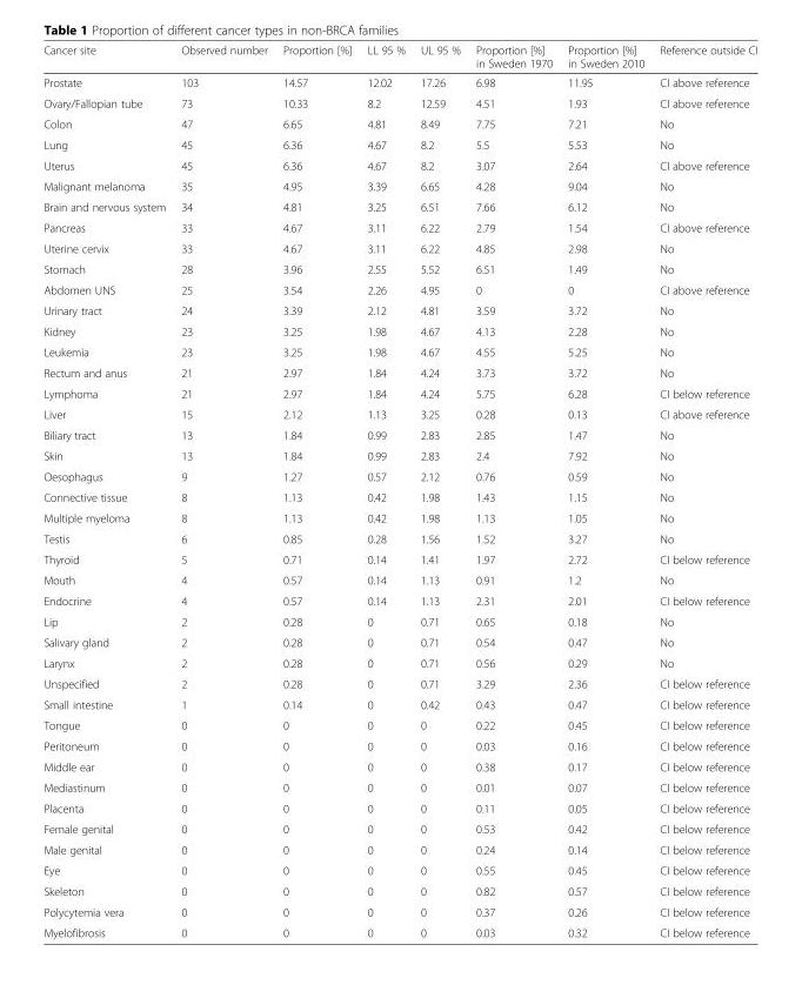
<table><thead><tr><td>Cancer site</td><td>Observed number</td><td>Proportion [%]</td><td>LL 95 %</td><td>UL 95 %</td><td>Proportion [%] in Sweden 1970</td><td>Proportion [%] in Sweden 2010</td><td>Reference outside CI</td></tr></thead><tbody><tr><td>Prostate</td><td>103</td><td>14.57</td><td>12.02</td><td>17.26</td><td>6.98</td><td>11.95</td><td>CI above reference</td></tr><tr><td>Ovary/Fallopian tube</td><td>73</td><td>10.33</td><td>8.2</td><td>12.59</td><td>4.51</td><td>1.93</td><td>CI above reference</td></tr><tr><td>Colon</td><td>47</td><td>6.65</td><td>4.81</td><td>8.49</td><td>7.75</td><td>7.21</td><td>No</td></tr><tr><td>Lung</td><td>45</td><td>6.36</td><td>4.67</td><td>8.2</td><td>5.5</td><td>5.53</td><td>No</td></tr><tr><td>Uterus</td><td>45</td><td>6.36</td><td>4.67</td><td>8.2</td><td>3.07</td><td>2.64</td><td>CI above reference</td></tr><tr><td>Malignant melanoma</td><td>35</td><td>4.95</td><td>3.39</td><td>6.65</td><td>4.28</td><td>9.04</td><td>No</td></tr><tr><td>Brain and nervous system</td><td>34</td><td>4.81</td><td>3.25</td><td>6.51</td><td>7.66</td><td>6.12</td><td>No</td></tr><tr><td>Pancreas</td><td>33</td><td>4.67</td><td>3.11</td><td>6.22</td><td>2.79</td><td>1.54</td><td>CI above reference</td></tr><tr><td>Uterine cervix</td><td>33</td><td>4.67</td><td>3.11</td><td>6.22</td><td>4.85</td><td>2.98</td><td>No</td></tr><tr><td>Stomach</td><td>28</td><td>3.96</td><td>2.55</td><td>5.52</td><td>6.51</td><td>1.49</td><td>No</td></tr><tr><td>Abdomen UNS</td><td>25</td><td>3.54</td><td>2.26</td><td>4.95</td><td>0</td><td>0</td><td>CI above reference</td></tr><tr><td>Urinary tract</td><td>24</td><td>3.39</td><td>2.12</td><td>4.81</td><td>3.59</td><td>3.72</td><td>No</td></tr><tr><td>Kidney</td><td>23</td><td>3.25</td><td>1.98</td><td>4.67</td><td>4.13</td><td>2.28</td><td>No</td></tr><tr><td>Leukemia</td><td>23</td><td>3.25</td><td>1.98</td><td>4.67</td><td>4.55</td><td>5.25</td><td>No</td></tr><tr><td>Rectum and anus</td><td>21</td><td>2.97</td><td>1.84</td><td>4.24</td><td>3.73</td><td>3.72</td><td>No</td></tr><tr><td>Lymphoma</td><td>21</td><td>2.97</td><td>1.84</td><td>4.24</td><td>5.75</td><td>6.28</td><td>CI below reference</td></tr><tr><td>Liver</td><td>15</td><td>2.12</td><td>1.13</td><td>3.25</td><td>0.28</td><td>0.13</td><td>CI above reference</td></tr><tr><td>Biliary tract</td><td>13</td><td>1.84</td><td>0.99</td><td>2.83</td><td>2.85</td><td>1.47</td><td>No</td></tr><tr><td>Skin</td><td>13</td><td>1.84</td><td>0.99</td><td>2.83</td><td>2.4</td><td>7.92</td><td>No</td></tr><tr><td>Oesophagus</td><td>9</td><td>1.27</td><td>0.57</td><td>2.12</td><td>0.76</td><td>0.59</td><td>No</td></tr><tr><td>Connective tissue</td><td>8</td><td>1.13</td><td>0.42</td><td>1.98</td><td>1.43</td><td>1.15</td><td>No</td></tr><tr><td>Multiple myeloma</td><td>8</td><td>1.13</td><td>0.42</td><td>1.98</td><td>1.13</td><td>1.05</td><td>No</td></tr><tr><td>Testis</td><td>6</td><td>0.85</td><td>0.28</td><td>1.56</td><td>1.52</td><td>3.27</td><td>No</td></tr><tr><td>Thyroid</td><td>5</td><td>0.71</td><td>0.14</td><td>1.41</td><td>1.97</td><td>2.72</td><td>CI below reference</td></tr><tr><td>Mouth</td><td>4</td><td>0.57</td><td>0.14</td><td>1.13</td><td>0.91</td><td>1.2</td><td>No</td></tr><tr><td>Endocrine</td><td>4</td><td>0.57</td><td>0.14</td><td>1.13</td><td>2.31</td><td>2.01</td><td>CI below reference</td></tr><tr><td>Lip</td><td>2</td><td>0.28</td><td>0</td><td>0.71</td><td>0.65</td><td>0.18</td><td>No</td></tr><tr><td>Salivary gland</td><td>2</td><td>0.28</td><td>0</td><td>0.71</td><td>0.54</td><td>0.47</td><td>No</td></tr><tr><td>Larynx</td><td>2</td><td>0.28</td><td>0</td><td>0.71</td><td>0.56</td><td>0.29</td><td>No</td></tr><tr><td>Unspecified</td><td>2</td><td>0.28</td><td>0</td><td>0.71</td><td>3.29</td><td>2.36</td><td>CI below reference</td></tr><tr><td>Small intestine</td><td>1</td><td>0.14</td><td>0</td><td>0.42</td><td>0.43</td><td>0.47</td><td>CI below reference</td></tr><tr><td>Tongue</td><td>0</td><td>0</td><td>0</td><td>0</td><td>0.22</td><td>0.45</td><td>CI below reference</td></tr><tr><td>Peritoneum</td><td>0</td><td>0</td><td>0</td><td>0</td><td>0.03</td><td>0.16</td><td>CI below reference</td></tr><tr><td>Middle ear</td><td>0</td><td>0</td><td>0</td><td>0</td><td>0.38</td><td>0.17</td><td>CI below reference</td></tr><tr><td>Mediastinum</td><td>0</td><td>0</td><td>0</td><td>0</td><td>0.01</td><td>0.07</td><td>CI below reference</td></tr><tr><td>Placenta</td><td>0</td><td>0</td><td>0</td><td>0</td><td>0.11</td><td>0.05</td><td>CI below reference</td></tr><tr><td>Female genital</td><td>0</td><td>0</td><td>0</td><td>0</td><td>0.53</td><td>0.42</td><td>CI below reference</td></tr><tr><td>Male genital</td><td>0</td><td>0</td><td>0</td><td>0</td><td>0.24</td><td>0.14</td><td>CI below reference</td></tr><tr><td>Eye</td><td>0</td><td>0</td><td>0</td><td>0</td><td>0.55</td><td>0.45</td><td>CI below reference</td></tr><tr><td>Skeleton</td><td>0</td><td>0</td><td>0</td><td>0</td><td>0.82</td><td>0.57</td><td>CI below reference</td></tr><tr><td>Polycytemia vera</td><td>0</td><td>0</td><td>0</td><td>0</td><td>0.37</td><td>0.26</td><td>CI below reference</td></tr><tr><td>Myelofibrosis</td><td>0</td><td>0</td><td>0</td><td>0</td><td>0.03</td><td>0.32</td><td>CI below reference</td></tr></tbody></table>